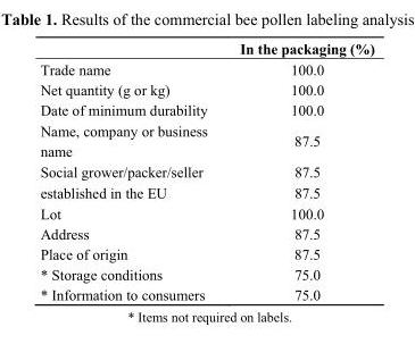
<table><thead><tr><td></td><td>In the packaging (%)</td></tr></thead><tbody><tr><td>Trade name</td><td>100.0</td></tr><tr><td>Net quantity (g or kg)</td><td>100.0</td></tr><tr><td>Date of minimum durability</td><td>100.0</td></tr><tr><td>Name, company or business name</td><td>87.5</td></tr><tr><td>Social grower/packer/seller</td><td>87.5</td></tr><tr><td>established in the EU</td><td>87.5</td></tr><tr><td>Lot</td><td>100.0</td></tr><tr><td>Address</td><td>87.5</td></tr><tr><td>Place of origin</td><td>87.5</td></tr><tr><td>* Storage conditions</td><td>75.0</td></tr><tr><td>* Information to consumers</td><td>75.0</td></tr></tbody></table>